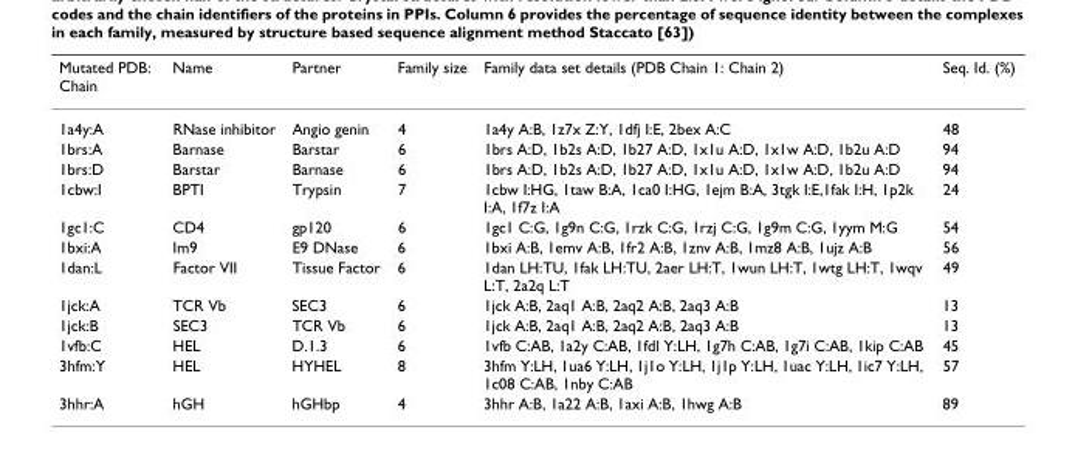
<table><thead><tr><td>Mutated PDB: Chain</td><td>Name</td><td>Partner</td><td>Family size</td><td>Family data set details (PDB Chain 1: Chain 2)</td><td>Seq. Id. (%)</td></tr></thead><tbody><tr><td>1a4y:A</td><td>RNase inhibitor</td><td>Angio genin</td><td>4</td><td>1a4y A:B, 1z7x Z:Y, 1dfj I:E, 2bex A:C</td><td>48</td></tr><tr><td>1brs:A</td><td>Barnase</td><td>Barstar</td><td>6</td><td>1brs A:D, 1b2s A:D, 1b27 A:D, 1x1u A:D, 1x1w A:D, 1b2u A:D</td><td>94</td></tr><tr><td>1brs:D</td><td>Barstar</td><td>Barnase</td><td>6</td><td>1brs A:D, 1b2s A:D, 1b27 A:D, 1x1u A:D, 1x1w A:D, 1b2u A:D</td><td>94</td></tr><tr><td>1cbw:I</td><td>BPTI</td><td>Trypsin</td><td>7</td><td>1cbw I:HG, 1taw B:A, 1ca0 I:HG, 1ejm B:A, 3tgk I:E,1fak I:H, 1p2k I:A, 1f7z I:A</td><td>24</td></tr><tr><td>1gc1:C</td><td>CD4</td><td>gp120</td><td>6</td><td>1gc1 C:G, 1g9n C:G, 1rzk C:G, 1rzj C:G, 1g9m C:G, 1yym M:G</td><td>54</td></tr><tr><td>1bxi:A</td><td>Im9</td><td>E9 DNase</td><td>6</td><td>1bxi A:B, 1emv A:B, 1fr2 A:B, 1znv A:B, 1mz8 A:B, 1ujz A:B</td><td>56</td></tr><tr><td>1dan:L</td><td>Factor VII</td><td>Tissue Factor</td><td>6</td><td>1dan LH:TU, 1fak LH:TU, 2aer LH:T, 1wun LH:T, 1wtg LH:T, 1wqv L:T, 2a2q L:T</td><td>49</td></tr><tr><td>1jck:A</td><td>TCR Vb</td><td>SEC3</td><td>6</td><td>1jck A:B, 2aq1 A:B, 2aq2 A:B, 2aq3 A:B</td><td>13</td></tr><tr><td>1jck:B</td><td>SEC3</td><td>TCR Vb</td><td>6</td><td>1jck A:B, 2aq1 A:B, 2aq2 A:B, 2aq3 A:B</td><td>13</td></tr><tr><td>1vfb:C</td><td>HEL</td><td>D.1.3</td><td>6</td><td>1vfb C:AB, 1a2y C:AB, 1fdl Y:LH, 1g7h C:AB, 1g7i C:AB, 1kip C:AB</td><td>45</td></tr><tr><td>3hfm:Y</td><td>HEL</td><td>HYHEL</td><td>8</td><td>3hfm Y:LH, 1ua6 Y:LH, 1j1o Y:LH, 1j1p Y:LH, 1uac Y:LH, 1ic7 Y:LH, 1c08 C:AB, 1nby C:AB</td><td>57</td></tr><tr><td>3hhr:A</td><td>hGH</td><td>hGHbp</td><td>4</td><td>3hhr A:B, 1a22 A:B, 1axi A:B, 1hwg A:B</td><td>89</td></tr></tbody></table>